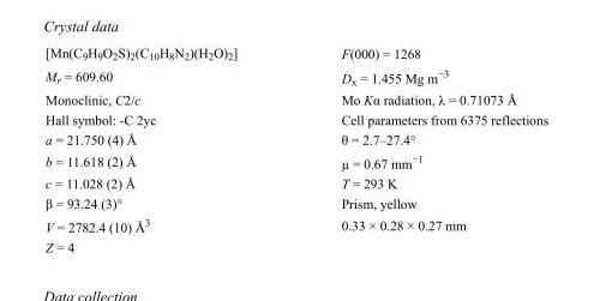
<table><tbody><tr><td>[Mn(C<sub>9</sub>H<sub>9</sub>O<sub>2</sub>S)<sub>2</sub>(C<sub>10</sub>H<sub>8</sub>N<sub>2</sub>)(H<sub>2</sub>O)<sub>2</sub>]</td><td>F(000) = 1268</td></tr><tr><td>M<sub>r</sub> = 609.60</td><td>D<sub>x</sub> = 1.455 Mg m<sup>−3</sup></td></tr><tr><td>Monoclinic, C2/c</td><td>Mo Kα radiation, λ = 0.71073 Å</td></tr><tr><td>Hall symbol: -C 2yc</td><td>Cell parameters from 6375 reflections</td></tr><tr><td>a = 21.750 (4) Å</td><td>θ = 2.7–27.4°</td></tr><tr><td>b = 11.618 (2) Å</td><td>µ = 0.67 mm<sup>−1</sup></td></tr><tr><td>c = 11.028 (2) Å</td><td>T = 293 K</td></tr><tr><td>β = 93.24 (3)°</td><td>Prism, yellow</td></tr><tr><td>V = 2782.4 (10) Å<sup>3</sup></td><td>0.33 × 0.28 × 0.27 mm</td></tr><tr><td>Z = 4</td><td></td></tr></tbody></table>